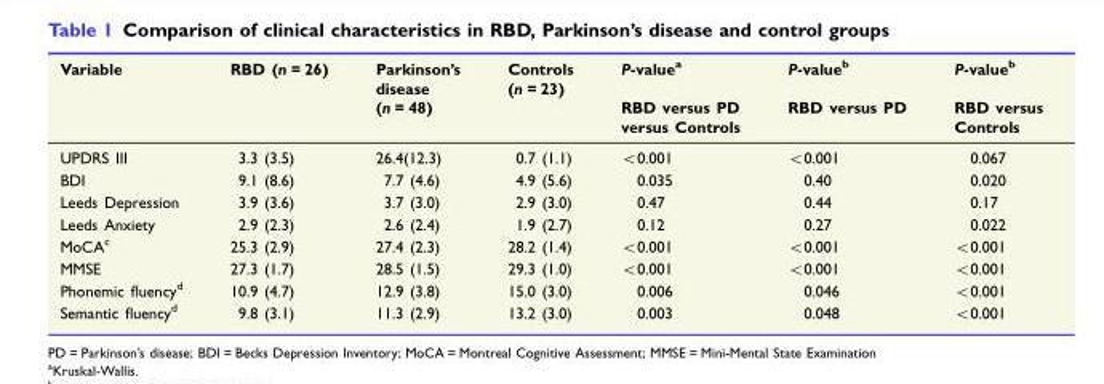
<table><thead><tr><td rowspan="2">Variable</td><td rowspan="2">RBD (n = 26)</td><td rowspan="2">Parkinson’s disease (n = 48)</td><td rowspan="2">Controls (n = 23)</td><td rowspan="2">P-value<sup>a</sup> RBD versus PD versus Controls</td><td rowspan="2">P-value<sup>b</sup> RBD versus PD</td><td rowspan="2">P-value<sup>b</sup> RBD versus Controls</td></tr><tr></tr></thead><tbody><tr><td>UPDRS III</td><td>3.3 (3.5)</td><td>26.4(12.3)</td><td>0.7 (1.1)</td><td>&lt;0.001</td><td>&lt;0.001</td><td>0.067</td></tr><tr><td>BDI</td><td>9.1 (8.6)</td><td>7.7 (4.6)</td><td>4.9 (5.6)</td><td>0.035</td><td>0.40</td><td>0.020</td></tr><tr><td>Leeds Depression</td><td>3.9 (3.6)</td><td>3.7 (3.0)</td><td>2.9 (3.0)</td><td>0.47</td><td>0.44</td><td>0.17</td></tr><tr><td>Leeds Anxiety</td><td>2.9 (2.3)</td><td>2.6 (2.4)</td><td>1.9 (2.7)</td><td>0.12</td><td>0.27</td><td>0.022</td></tr><tr><td>MoCA<sup>c</sup></td><td>25.3 (2.9)</td><td>27.4 (2.3)</td><td>28.2 (1.4)</td><td>&lt;0.001</td><td>&lt;0.001</td><td>&lt;0.001</td></tr><tr><td>MMSE</td><td>27.3 (1.7)</td><td>28.5 (1.5)</td><td>29.3 (1.0)</td><td>&lt;0.001</td><td>&lt;0.001</td><td>&lt;0.001</td></tr><tr><td>Phonemic fluency<sup>d</sup></td><td>10.9 (4.7)</td><td>12.9 (3.8)</td><td>15.0 (3.0)</td><td>0.006</td><td>0.046</td><td>&lt;0.001</td></tr><tr><td>Semantic fluency<sup>d</sup></td><td>9.8 (3.1)</td><td>11.3 (2.9)</td><td>13.2 (3.0)</td><td>0.003</td><td>0.048</td><td>&lt;0.001</td></tr></tbody></table>